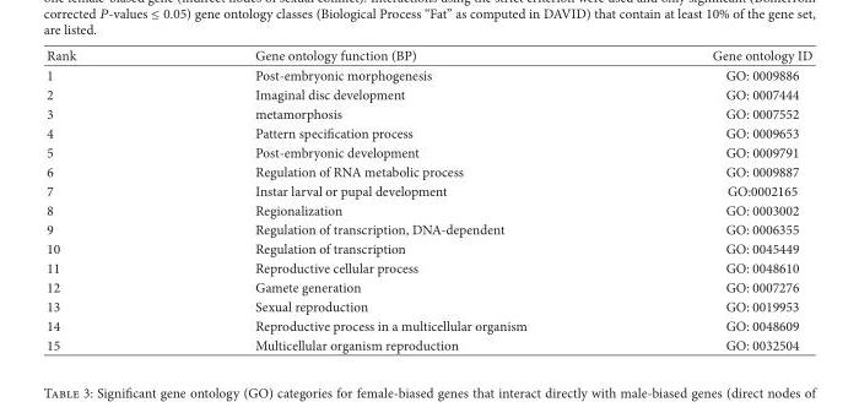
<table><thead><tr><td>Rank</td><td>Gene ontology function (BP)</td><td>Gene ontology ID</td></tr></thead><tbody><tr><td>1</td><td>Post-embryonic morphogenesis</td><td>GO: 0009886</td></tr><tr><td>2</td><td>Imaginal disc development</td><td>GO: 0007444</td></tr><tr><td>3</td><td>metamorphosis</td><td>GO: 0007552</td></tr><tr><td>4</td><td>Pattern speci�cation process</td><td>GO: 0009653</td></tr><tr><td>5</td><td>Post-embryonic development</td><td>GO: 0009791</td></tr><tr><td>6</td><td>Regulation of RNA metabolic process</td><td>GO: 0009887</td></tr><tr><td>7</td><td>Instar larval or pupal development</td><td>GO:0002165</td></tr><tr><td>8</td><td>Regionalization</td><td>GO: 0003002</td></tr><tr><td>9</td><td>Regulation of transcription, DNA-dependent</td><td>GO: 0006355</td></tr><tr><td>10</td><td>Regulation of transcription</td><td>GO: 0045449</td></tr><tr><td>11</td><td>Reproductive cellular process</td><td>GO: 0048610</td></tr><tr><td>12</td><td>Gamete generation</td><td>GO: 0007276</td></tr><tr><td>13</td><td>Sexual reproduction</td><td>GO: 0019953</td></tr><tr><td>14</td><td>Reproductive process in a multicellular organism</td><td>GO: 0048609</td></tr><tr><td>15</td><td>Multicellular organism reproduction</td><td>GO: 0032504</td></tr></tbody></table>